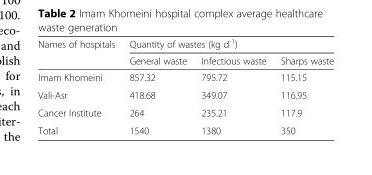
<table><thead><tr><td rowspan="2">Names of hospitals</td><td colspan="3">Quantity of wastes (kg d<sup>-1</sup>)</td></tr><tr><td>General waste</td><td>Infectious waste</td><td>Sharps waste</td></tr></thead><tbody><tr><td>Imam Khomeini</td><td>857.32</td><td>795.72</td><td>115.15</td></tr><tr><td>Vali-Asr</td><td>418.68</td><td>349.07</td><td>116.95</td></tr><tr><td>Cancer Institute</td><td>264</td><td>235.21</td><td>117.9</td></tr><tr><td>Total</td><td>1540</td><td>1380</td><td>350</td></tr></tbody></table>